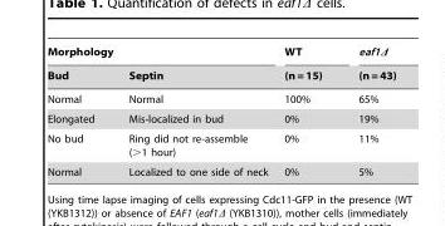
<table><thead><tr><td colspan="2">Morphology</td><td rowspan="2">WT (n = 15)</td><td rowspan="2">eaf1Δ (n = 43)</td></tr><tr><td>Bud</td><td>Septin</td></tr></thead><tbody><tr><td>Normal</td><td>Normal</td><td>100%</td><td>65%</td></tr><tr><td>Elongated</td><td>Mis-localized in bud</td><td>0%</td><td>19%</td></tr><tr><td>No bud</td><td>Ring did not re-assemble (&gt;1 hour)</td><td>0%</td><td>11%</td></tr><tr><td>Normal</td><td>Localized to one side of neck</td><td>0%</td><td>5%</td></tr></tbody></table>